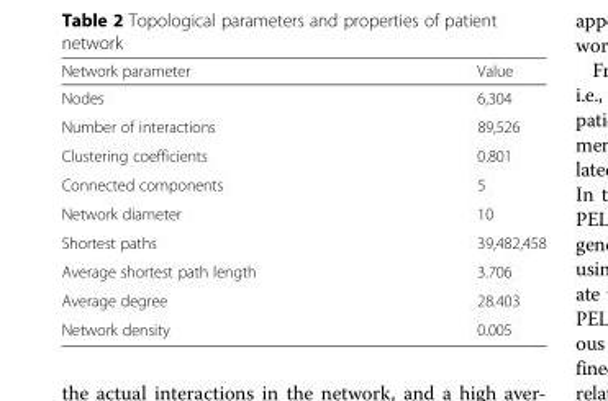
<table><thead><tr><td>Network parameter</td><td>Value</td></tr></thead><tbody><tr><td>Nodes</td><td>6,304</td></tr><tr><td>Number of interactions</td><td>89,526</td></tr><tr><td>Clustering coefficients</td><td>0.801</td></tr><tr><td>Connected components</td><td>5</td></tr><tr><td>Network diameter</td><td>10</td></tr><tr><td>Shortest paths</td><td>39,482,458</td></tr><tr><td>Average shortest path length</td><td>3.706</td></tr><tr><td>Average degree</td><td>28.403</td></tr><tr><td>Network density</td><td>0.005</td></tr></tbody></table>